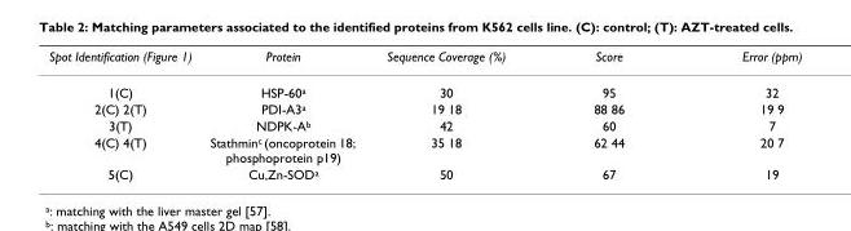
<table><thead><tr><td>Spot Identification (Figure 1)</td><td>Protein</td><td>Sequence Coverage (%)</td><td>Score</td><td>Error (ppm)</td></tr></thead><tbody><tr><td>1(C)</td><td>HSP-60<sup>a</sup></td><td>30</td><td>95</td><td>32</td></tr><tr><td>2(C) 2(T)</td><td>PDI-A3<sup>a</sup></td><td>19 18</td><td>88 86</td><td>19 9</td></tr><tr><td>3(T)</td><td>NDPK-A<sup>b</sup></td><td>42</td><td>60</td><td>7</td></tr><tr><td>4(C) 4(T)</td><td>Stathmin<sup>c</sup> (oncoprotein 18; phosphoprotein p19)</td><td>35 18</td><td>62 44</td><td>20 7</td></tr><tr><td>5(C)</td><td>Cu,Zn-SOD<sup>a</sup></td><td>50</td><td>67</td><td>19</td></tr></tbody></table>